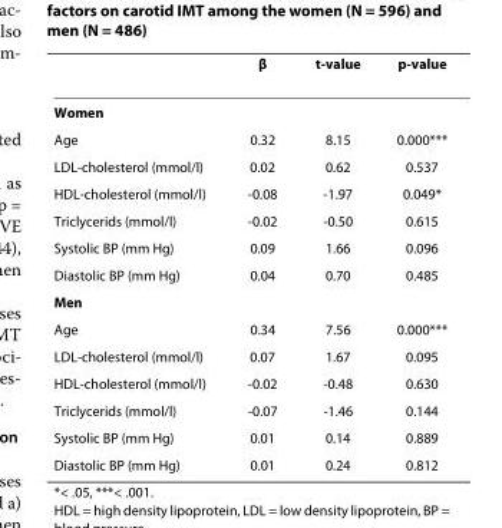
<table><thead><tr><td></td><td>β</td><td>t-value</td><td>p-value</td></tr></thead><tbody><tr><td colspan="4">Women</td></tr><tr><td>Age</td><td>0.32</td><td>8.15</td><td>0.000***</td></tr><tr><td>LDL-cholesterol (mmol/l)</td><td>0.02</td><td>0.62</td><td>0.537</td></tr><tr><td>HDL-cholesterol (mmol/l)</td><td>-0.08</td><td>-1.97</td><td>0.049*</td></tr><tr><td>Triclycerids (mmol/l)</td><td>-0.02</td><td>-0.50</td><td>0.615</td></tr><tr><td>Systolic BP (mm Hg)</td><td>0.09</td><td>1.66</td><td>0.096</td></tr><tr><td>Diastolic BP (mm Hg)</td><td>0.04</td><td>0.70</td><td>0.485</td></tr><tr><td colspan="4">Men</td></tr><tr><td>Age</td><td>0.34</td><td>7.56</td><td>0.000***</td></tr><tr><td>LDL-cholesterol (mmol/l)</td><td>0.07</td><td>1.67</td><td>0.095</td></tr><tr><td>HDL-cholesterol (mmol/l)</td><td>-0.02</td><td>-0.48</td><td>0.630</td></tr><tr><td>Triclycerids (mmol/l)</td><td>-0.07</td><td>-1.46</td><td>0.144</td></tr><tr><td>Systolic BP (mm Hg)</td><td>0.01</td><td>0.14</td><td>0.889</td></tr><tr><td>Diastolic BP (mm Hg)</td><td>0.01</td><td>0.24</td><td>0.812</td></tr></tbody></table>